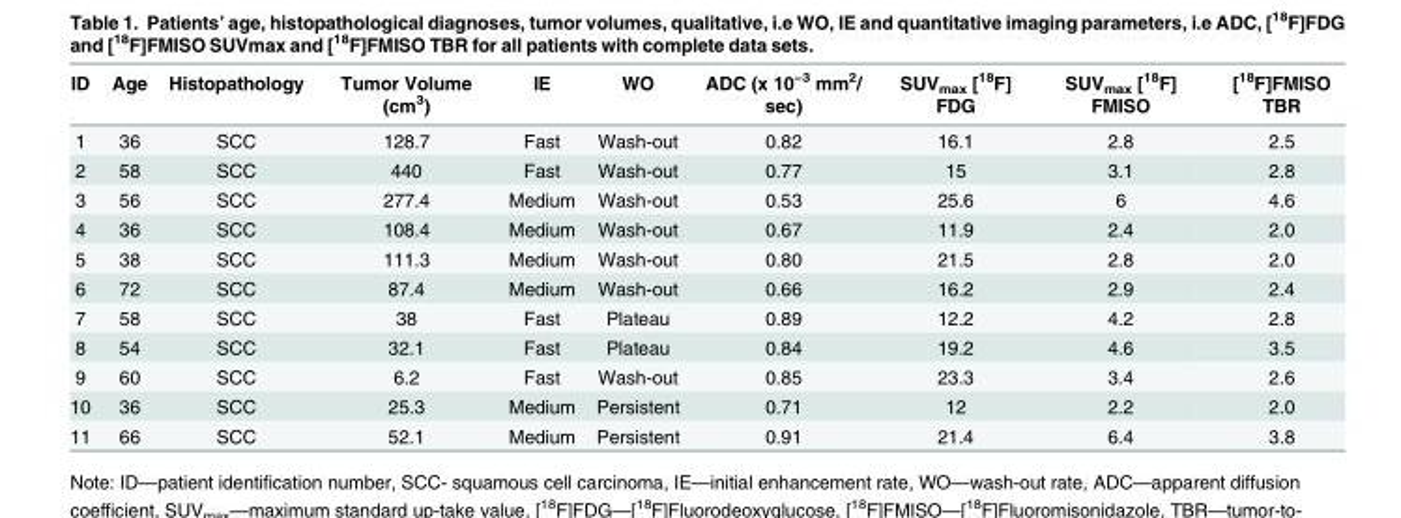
<table><thead><tr><td>ID</td><td>Age</td><td>Histopathology</td><td>Tumor Volume (cm<sup>3</sup>)</td><td>IE</td><td>WO</td><td>ADC (x 10<sup>−3</sup> mm<sup>2</sup>/ sec)</td><td>SUV<sub>max</sub> [<sup>18</sup>F] FDG</td><td>SUV<sub>max</sub> [<sup>18</sup>F] FMISO</td><td>[<sup>18</sup>F]FMISO TBR</td></tr></thead><tbody><tr><td>1</td><td>36</td><td>SCC</td><td>128.7</td><td>Fast</td><td>Wash-out</td><td>0.82</td><td>16.1</td><td>2.8</td><td>2.5</td></tr><tr><td>2</td><td>58</td><td>SCC</td><td>440</td><td>Fast</td><td>Wash-out</td><td>0.77</td><td>15</td><td>3.1</td><td>2.8</td></tr><tr><td>3</td><td>56</td><td>SCC</td><td>277.4</td><td>Medium</td><td>Wash-out</td><td>0.53</td><td>25.6</td><td>6</td><td>4.6</td></tr><tr><td>4</td><td>36</td><td>SCC</td><td>108.4</td><td>Medium</td><td>Wash-out</td><td>0.67</td><td>11.9</td><td>2.4</td><td>2.0</td></tr><tr><td>5</td><td>38</td><td>SCC</td><td>111.3</td><td>Medium</td><td>Wash-out</td><td>0.80</td><td>21.5</td><td>2.8</td><td>2.0</td></tr><tr><td>6</td><td>72</td><td>SCC</td><td>87.4</td><td>Medium</td><td>Wash-out</td><td>0.66</td><td>16.2</td><td>2.9</td><td>2.4</td></tr><tr><td>7</td><td>58</td><td>SCC</td><td>38</td><td>Fast</td><td>Plateau</td><td>0.89</td><td>12.2</td><td>4.2</td><td>2.8</td></tr><tr><td>8</td><td>54</td><td>SCC</td><td>32.1</td><td>Fast</td><td>Plateau</td><td>0.84</td><td>19.2</td><td>4.6</td><td>3.5</td></tr><tr><td>9</td><td>60</td><td>SCC</td><td>6.2</td><td>Fast</td><td>Wash-out</td><td>0.85</td><td>23.3</td><td>3.4</td><td>2.6</td></tr><tr><td>10</td><td>36</td><td>SCC</td><td>25.3</td><td>Medium</td><td>Persistent</td><td>0.71</td><td>12</td><td>2.2</td><td>2.0</td></tr><tr><td>11</td><td>66</td><td>SCC</td><td>52.1</td><td>Medium</td><td>Persistent</td><td>0.91</td><td>21.4</td><td>6.4</td><td>3.8</td></tr></tbody></table>